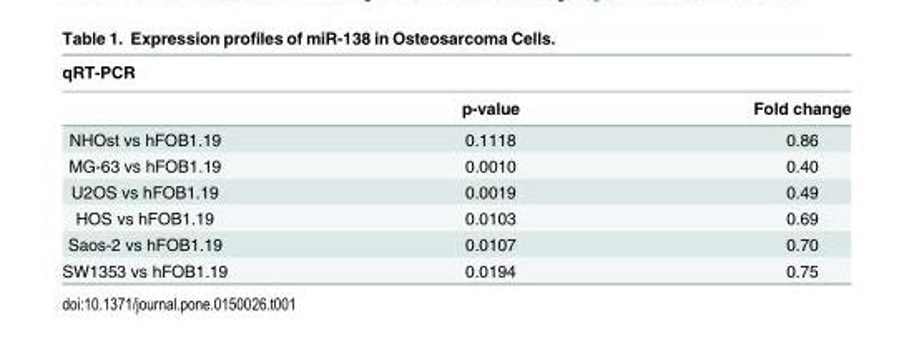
<table><thead><tr><td colspan="3">qRT-PCR</td></tr><tr><td></td><td>p-value</td><td>Fold change</td></tr></thead><tbody><tr><td>NHOst vs hFOB1.19</td><td>0.1118</td><td>0.86</td></tr><tr><td>MG-63 vs hFOB1.19</td><td>0.0010</td><td>0.40</td></tr><tr><td>U2OS vs hFOB1.19</td><td>0.0019</td><td>0.49</td></tr><tr><td>HOS vs hFOB1.19</td><td>0.0103</td><td>0.69</td></tr><tr><td>Saos-2 vs hFOB1.19</td><td>0.0107</td><td>0.70</td></tr><tr><td>SW1353 vs hFOB1.19</td><td>0.0194</td><td>0.75</td></tr></tbody></table>